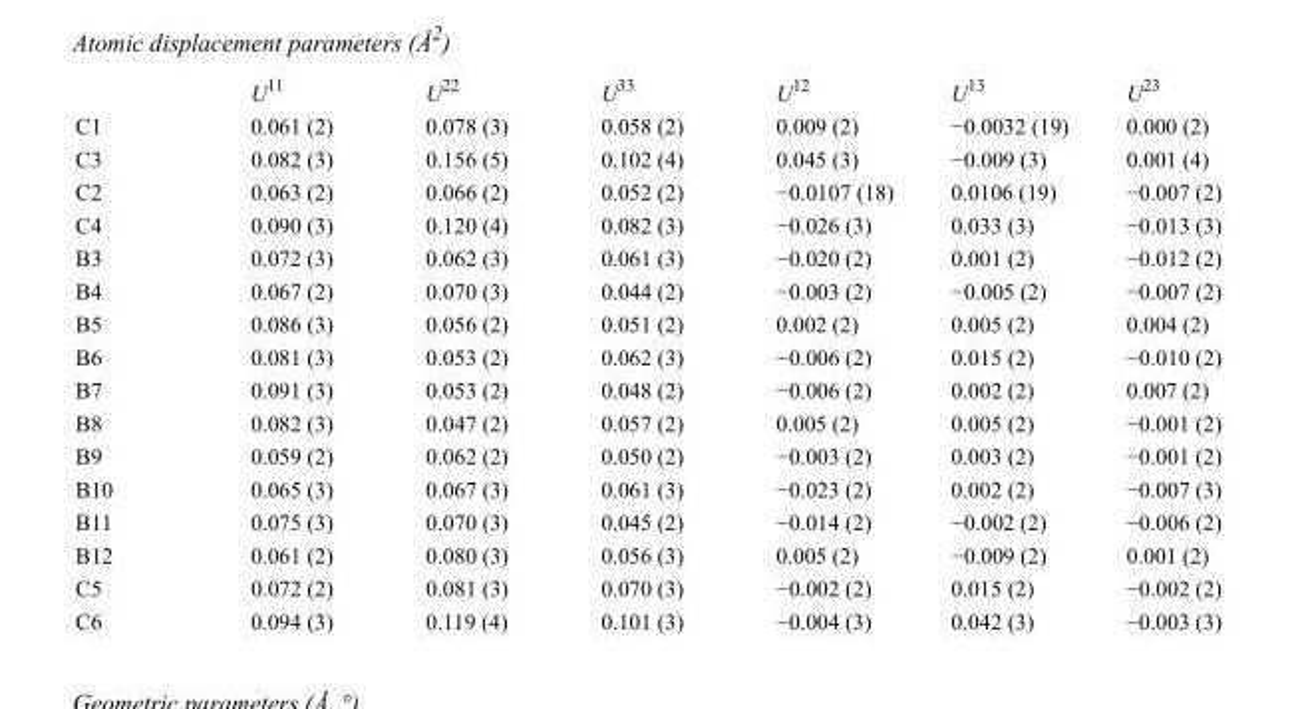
<table><thead><tr><td></td><td>U<sup>11</sup></td><td>U<sup>22</sup></td><td>U<sup>33</sup></td><td>U<sup>12</sup></td><td>U<sup>13</sup></td><td>U<sup>23</sup></td></tr></thead><tbody><tr><td>C1</td><td>0.061 (2)</td><td>0.078 (3)</td><td>0.058 (2)</td><td>0.009 (2)</td><td>−0.0032 (19)</td><td>0.000 (2)</td></tr><tr><td>C3</td><td>0.082 (3)</td><td>0.156 (5)</td><td>0.102 (4)</td><td>0.045 (3)</td><td>−0.009 (3)</td><td>0.001 (4)</td></tr><tr><td>C2</td><td>0.063 (2)</td><td>0.066 (2)</td><td>0.052 (2)</td><td>−0.0107 (18)</td><td>0.0106 (19)</td><td>−0.007 (2)</td></tr><tr><td>C4</td><td>0.090 (3)</td><td>0.120 (4)</td><td>0.082 (3)</td><td>−0.026 (3)</td><td>0.033 (3)</td><td>−0.013 (3)</td></tr><tr><td>B3</td><td>0.072 (3)</td><td>0.062 (3)</td><td>0.061 (3)</td><td>−0.020 (2)</td><td>0.001 (2)</td><td>−0.012 (2)</td></tr><tr><td>B4</td><td>0.067 (2)</td><td>0.070 (3)</td><td>0.044 (2)</td><td>−0.003 (2)</td><td>−0.005 (2)</td><td>−0.007 (2)</td></tr><tr><td>B5</td><td>0.086 (3)</td><td>0.056 (2)</td><td>0.051 (2)</td><td>0.002 (2)</td><td>0.005 (2)</td><td>0.004 (2)</td></tr><tr><td>B6</td><td>0.081 (3)</td><td>0.053 (2)</td><td>0.062 (3)</td><td>−0.006 (2)</td><td>0.015 (2)</td><td>−0.010 (2)</td></tr><tr><td>B7</td><td>0.091 (3)</td><td>0.053 (2)</td><td>0.048 (2)</td><td>−0.006 (2)</td><td>0.002 (2)</td><td>0.007 (2)</td></tr><tr><td>B8</td><td>0.082 (3)</td><td>0.047 (2)</td><td>0.057 (2)</td><td>0.005 (2)</td><td>0.005 (2)</td><td>−0.001 (2)</td></tr><tr><td>B9</td><td>0.059 (2)</td><td>0.062 (2)</td><td>0.050 (2)</td><td>−0.003 (2)</td><td>0.003 (2)</td><td>−0.001 (2)</td></tr><tr><td>B10</td><td>0.065 (3)</td><td>0.067 (3)</td><td>0.061 (3)</td><td>−0.023 (2)</td><td>0.002 (2)</td><td>−0.007 (3)</td></tr><tr><td>B11</td><td>0.075 (3)</td><td>0.070 (3)</td><td>0.045 (2)</td><td>−0.014 (2)</td><td>−0.002 (2)</td><td>−0.006 (2)</td></tr><tr><td>B12</td><td>0.061 (2)</td><td>0.080 (3)</td><td>0.056 (3)</td><td>0.005 (2)</td><td>−0.009 (2)</td><td>0.001 (2)</td></tr><tr><td>C5</td><td>0.072 (2)</td><td>0.081 (3)</td><td>0.070 (3)</td><td>−0.002 (2)</td><td>0.015 (2)</td><td>−0.002 (2)</td></tr><tr><td>C6</td><td>0.094 (3)</td><td>0.119 (4)</td><td>0.101 (3)</td><td>−0.004 (3)</td><td>0.042 (3)</td><td>−0.003 (3)</td></tr></tbody></table>